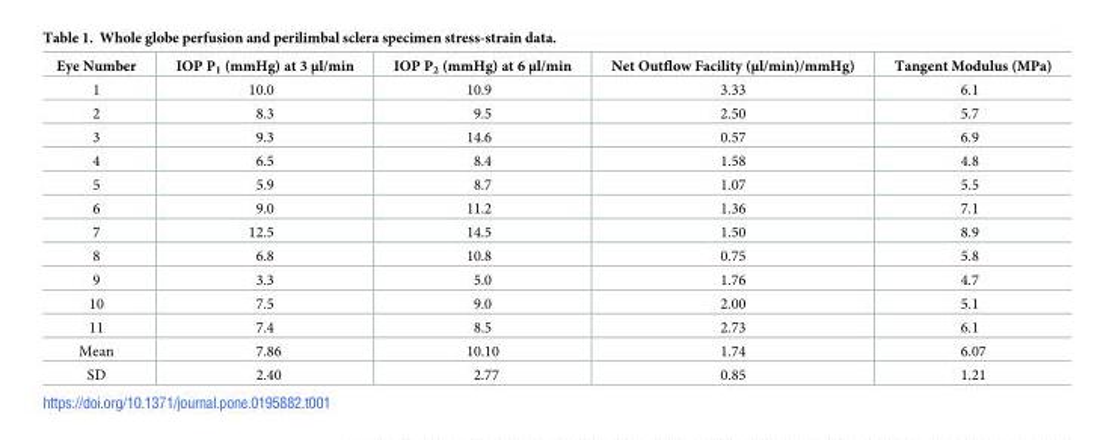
<table><thead><tr><td>Eye Number</td><td>IOP P<sub>1</sub> (mmHg) at 3 μl/min</td><td>IOP P<sub>2</sub> (mmHg) at 6 μl/min</td><td>Net Outflow Facility (μl/min)/mmHg)</td><td>Tangent Modulus (MPa)</td></tr></thead><tbody><tr><td>1</td><td>10.0</td><td>10.9</td><td>3.33</td><td>6.1</td></tr><tr><td>2</td><td>8.3</td><td>9.5</td><td>2.50</td><td>5.7</td></tr><tr><td>3</td><td>9.3</td><td>14.6</td><td>0.57</td><td>6.9</td></tr><tr><td>4</td><td>6.5</td><td>8.4</td><td>1.58</td><td>4.8</td></tr><tr><td>5</td><td>5.9</td><td>8.7</td><td>1.07</td><td>5.5</td></tr><tr><td>6</td><td>9.0</td><td>11.2</td><td>1.36</td><td>7.1</td></tr><tr><td>7</td><td>12.5</td><td>14.5</td><td>1.50</td><td>8.9</td></tr><tr><td>8</td><td>6.8</td><td>10.8</td><td>0.75</td><td>5.8</td></tr><tr><td>9</td><td>3.3</td><td>5.0</td><td>1.76</td><td>4.7</td></tr><tr><td>10</td><td>7.5</td><td>9.0</td><td>2.00</td><td>5.1</td></tr><tr><td>11</td><td>7.4</td><td>8.5</td><td>2.73</td><td>6.1</td></tr><tr><td>Mean</td><td>7.86</td><td>10.10</td><td>1.74</td><td>6.07</td></tr><tr><td>SD</td><td>2.40</td><td>2.77</td><td>0.85</td><td>1.21</td></tr></tbody></table>